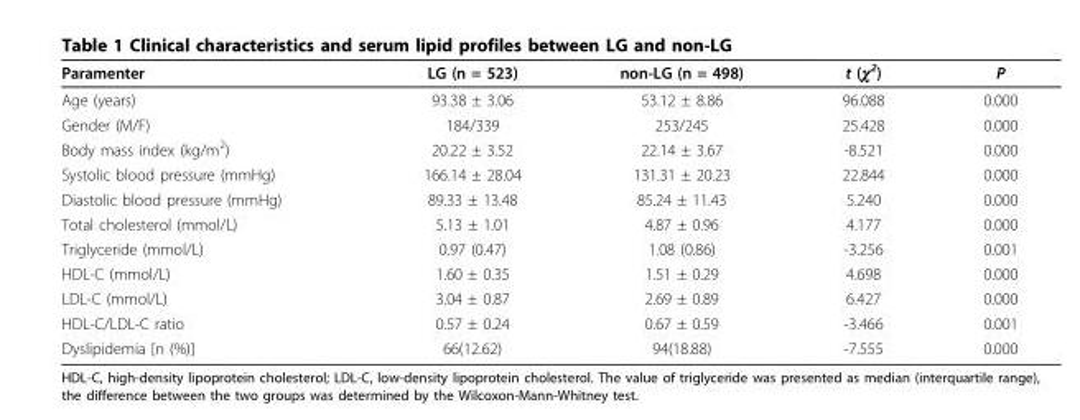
<table><thead><tr><td>Paramenter</td><td>LG (n = 523)</td><td>non-LG (n = 498)</td><td>t (χ<sup>2</sup>)</td><td>P</td></tr></thead><tbody><tr><td>Age (years)</td><td>93.38 ± 3.06</td><td>53.12 ± 8.86</td><td>96.088</td><td>0.000</td></tr><tr><td>Gender (M/F)</td><td>184/339</td><td>253/245</td><td>25.428</td><td>0.000</td></tr><tr><td>Body mass index (kg/m<sup>2</sup>)</td><td>20.22 ± 3.52</td><td>22.14 ± 3.67</td><td>-8.521</td><td>0.000</td></tr><tr><td>Systolic blood pressure (mmHg)</td><td>166.14 ± 28.04</td><td>131.31 ± 20.23</td><td>22.844</td><td>0.000</td></tr><tr><td>Diastolic blood pressure (mmHg)</td><td>89.33 ± 13.48</td><td>85.24 ± 11.43</td><td>5.240</td><td>0.000</td></tr><tr><td>Total cholesterol (mmol/L)</td><td>5.13 ± 1.01</td><td>4.87 ± 0.96</td><td>4.177</td><td>0.000</td></tr><tr><td>Triglyceride (mmol/L)</td><td>0.97 (0.47)</td><td>1.08 (0.86)</td><td>-3.256</td><td>0.001</td></tr><tr><td>HDL-C (mmol/L)</td><td>1.60 ± 0.35</td><td>1.51 ± 0.29</td><td>4.698</td><td>0.000</td></tr><tr><td>LDL-C (mmol/L)</td><td>3.04 ± 0.87</td><td>2.69 ± 0.89</td><td>6.427</td><td>0.000</td></tr><tr><td>HDL-C/LDL-C ratio</td><td>0.57 ± 0.24</td><td>0.67 ± 0.59</td><td>-3.466</td><td>0.001</td></tr><tr><td>Dyslipidemia [n (%)]</td><td>66(12.62)</td><td>94(18.88)</td><td>-7.555</td><td>0.000</td></tr></tbody></table>